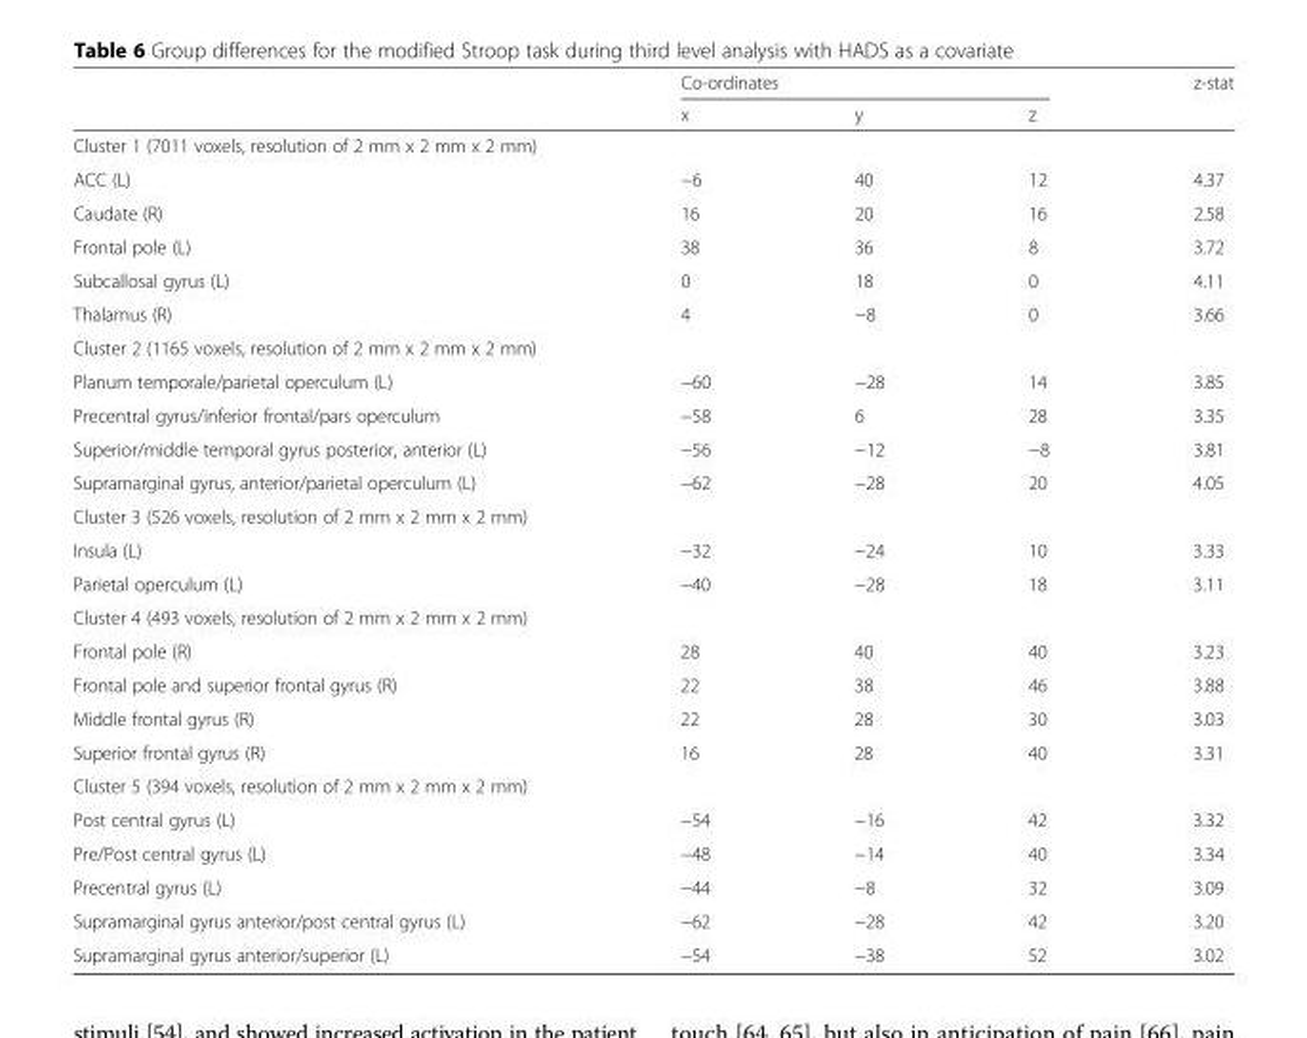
<table><thead><tr><td rowspan="2"></td><td colspan="3">Co-ordinates</td><td rowspan="2">z-stat</td></tr><tr><td>x</td><td>y</td><td>z</td></tr></thead><tbody><tr><td colspan="5">Cluster 1 (7011 voxels, resolution of 2 mm x 2 mm x 2 mm)</td></tr><tr><td>ACC (L)</td><td>−6</td><td>40</td><td>12</td><td>4.37</td></tr><tr><td>Caudate (R)</td><td>16</td><td>20</td><td>16</td><td>2.58</td></tr><tr><td>Frontal pole (L)</td><td>38</td><td>36</td><td>8</td><td>3.72</td></tr><tr><td>Subcallosal gyrus (L)</td><td>0</td><td>18</td><td>0</td><td>4.11</td></tr><tr><td>Thalamus (R)</td><td>4</td><td>−8</td><td>0</td><td>3.66</td></tr><tr><td colspan="5">Cluster 2 (1165 voxels, resolution of 2 mm x 2 mm x 2 mm)</td></tr><tr><td>Planum temporale/parietal operculum (L)</td><td>−60</td><td>−28</td><td>14</td><td>3.85</td></tr><tr><td>Precentral gyrus/inferior frontal/pars operculum</td><td>−58</td><td>6</td><td>28</td><td>3.35</td></tr><tr><td>Superior/middle temporal gyrus posterior, anterior (L)</td><td>−56</td><td>−12</td><td>−8</td><td>3.81</td></tr><tr><td>Supramarginal gyrus, anterior/parietal operculum (L)</td><td>−62</td><td>−28</td><td>20</td><td>4.05</td></tr><tr><td colspan="5">Cluster 3 (526 voxels, resolution of 2 mm x 2 mm x 2 mm)</td></tr><tr><td>Insula (L)</td><td>−32</td><td>−24</td><td>10</td><td>3.33</td></tr><tr><td>Parietal operculum (L)</td><td>−40</td><td>−28</td><td>18</td><td>3.11</td></tr><tr><td colspan="5">Cluster 4 (493 voxels, resolution of 2 mm x 2 mm x 2 mm)</td></tr><tr><td>Frontal pole (R)</td><td>28</td><td>40</td><td>40</td><td>3.23</td></tr><tr><td>Frontal pole and superior frontal gyrus (R)</td><td>22</td><td>38</td><td>46</td><td>3.88</td></tr><tr><td>Middle frontal gyrus (R)</td><td>22</td><td>28</td><td>30</td><td>3.03</td></tr><tr><td>Superior frontal gyrus (R)</td><td>16</td><td>28</td><td>40</td><td>3.31</td></tr><tr><td colspan="5">Cluster 5 (394 voxels, resolution of 2 mm x 2 mm x 2 mm)</td></tr><tr><td>Post central gyrus (L)</td><td>−54</td><td>−16</td><td>42</td><td>3.32</td></tr><tr><td>Pre/Post central gyrus (L)</td><td>−48</td><td>−14</td><td>40</td><td>3.34</td></tr><tr><td>Precentral gyrus (L)</td><td>−44</td><td>−8</td><td>32</td><td>3.09</td></tr><tr><td>Supramarginal gyrus anterior/post central gyrus (L)</td><td>−62</td><td>−28</td><td>42</td><td>3.20</td></tr><tr><td>Supramarginal gyrus anterior/superior (L)</td><td>−54</td><td>−38</td><td>52</td><td>3.02</td></tr></tbody></table>